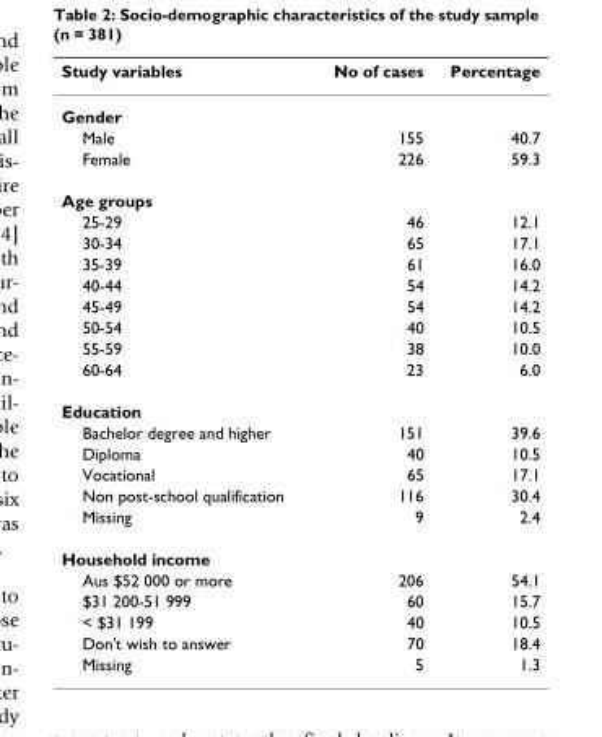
<table><thead><tr><td>Study variables</td><td>No of cases</td><td>Percentage</td></tr></thead><tbody><tr><td colspan="3">Gender</td></tr><tr><td>Male</td><td>155</td><td>40.7</td></tr><tr><td>Female</td><td>226</td><td>59.3</td></tr><tr><td colspan="3">Age groups</td></tr><tr><td>25-29</td><td>46</td><td>12.1</td></tr><tr><td>30-34</td><td>65</td><td>17.1</td></tr><tr><td>35-39</td><td>61</td><td>16.0</td></tr><tr><td>40-44</td><td>54</td><td>14.2</td></tr><tr><td>45-49</td><td>54</td><td>14.2</td></tr><tr><td>50-54</td><td>40</td><td>10.5</td></tr><tr><td>55-59</td><td>38</td><td>10.0</td></tr><tr><td>60-64</td><td>23</td><td>6.0</td></tr><tr><td colspan="3">Education</td></tr><tr><td>Bachelor degree and higher</td><td>151</td><td>39.6</td></tr><tr><td>Diploma</td><td>40</td><td>10.5</td></tr><tr><td>Vocational</td><td>65</td><td>17.1</td></tr><tr><td>Non post-school qualification</td><td>116</td><td>30.4</td></tr><tr><td>Missing</td><td>9</td><td>2.4</td></tr><tr><td colspan="3">Household income</td></tr><tr><td>Aus $52 000 or more</td><td>206</td><td>54.1</td></tr><tr><td>$31 200-51 999</td><td>60</td><td>15.7</td></tr><tr><td>&lt; $31 199</td><td>40</td><td>10.5</td></tr><tr><td>Don&#x27;t wish to answer</td><td>70</td><td>18.4</td></tr><tr><td>Missing</td><td>5</td><td>1.3</td></tr></tbody></table>